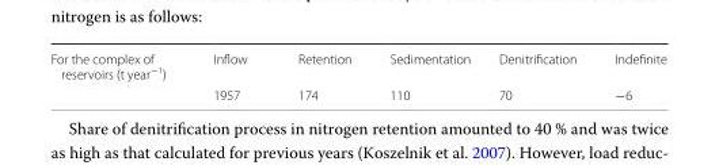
<table><tbody><tr><td rowspan="2">For the complex of reservoirs (t year<sup>−1</sup>)</td><td>Inflow</td><td>Retention</td><td>Sedimentation</td><td>Denitrification</td><td>Indefinite</td></tr><tr><td>1957</td><td>174</td><td>110</td><td>70</td><td>−6</td></tr></tbody></table>